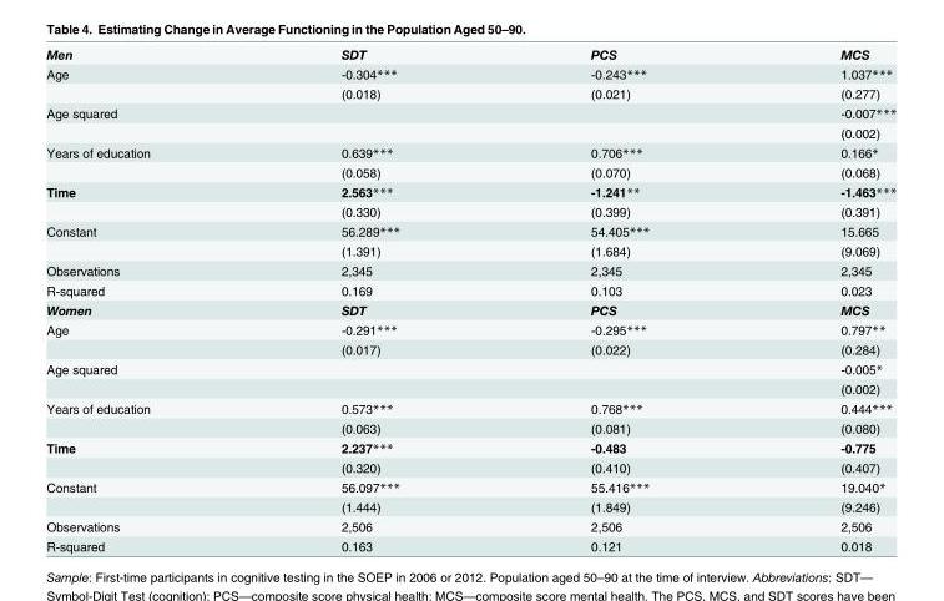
<table><tbody><tr><td>Men</td><td>SDT</td><td>PCS</td><td>MCS</td></tr><tr><td rowspan="2">Age</td><td>-0.304***</td><td>-0.243***</td><td>1.037***</td></tr><tr><td>(0.018)</td><td>(0.021)</td><td>(0.277)</td></tr><tr><td rowspan="2">Age squared</td><td></td><td></td><td>-0.007***</td></tr><tr><td></td><td></td><td>(0.002)</td></tr><tr><td rowspan="2">Years of education</td><td>0.639***</td><td>0.706***</td><td>0.166*</td></tr><tr><td>(0.058)</td><td>(0.070)</td><td>(0.068)</td></tr><tr><td rowspan="2">Time</td><td>2.563***</td><td>-1.241**</td><td>-1.463***</td></tr><tr><td>(0.330)</td><td>(0.399)</td><td>(0.391)</td></tr><tr><td rowspan="2">Constant</td><td>56.289***</td><td>54.405***</td><td>15.665</td></tr><tr><td>(1.391)</td><td>(1.684)</td><td>(9.069)</td></tr><tr><td>Observations</td><td>2,345</td><td>2,345</td><td>2,345</td></tr><tr><td>R-squared</td><td>0.169</td><td>0.103</td><td>0.023</td></tr><tr><td>Women</td><td>SDT</td><td>PCS</td><td>MCS</td></tr><tr><td rowspan="2">Age</td><td>-0.291***</td><td>-0.295***</td><td>0.797**</td></tr><tr><td>(0.017)</td><td>(0.022)</td><td>(0.284)</td></tr><tr><td rowspan="2">Age squared</td><td></td><td></td><td>-0.005*</td></tr><tr><td></td><td></td><td>(0.002)</td></tr><tr><td rowspan="2">Years of education</td><td>0.573***</td><td>0.768***</td><td>0.444***</td></tr><tr><td>(0.063)</td><td>(0.081)</td><td>(0.080)</td></tr><tr><td rowspan="2">Time</td><td>2.237***</td><td>-0.483</td><td>-0.775</td></tr><tr><td>(0.320)</td><td>(0.410)</td><td>(0.407)</td></tr><tr><td rowspan="2">Constant</td><td>56.097***</td><td>55.416***</td><td>19.040*</td></tr><tr><td>(1.444)</td><td>(1.849)</td><td>(9.246)</td></tr><tr><td>Observations</td><td>2,506</td><td>2,506</td><td>2,506</td></tr><tr><td>R-squared</td><td>0.163</td><td>0.121</td><td>0.018</td></tr></tbody></table>